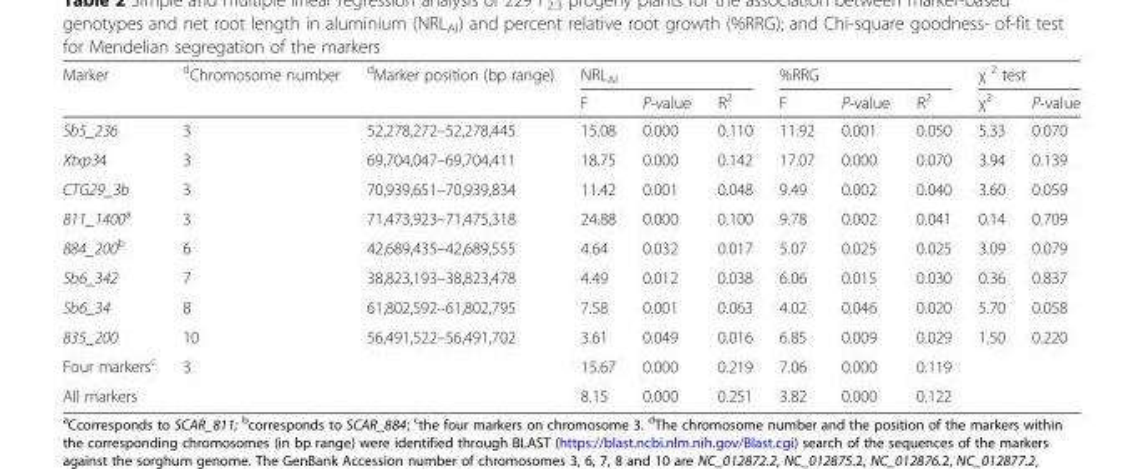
<table><thead><tr><td rowspan="2">Marker</td><td rowspan="2"><sup>d</sup>Chromosome number</td><td rowspan="2"><sup>d</sup>Marker position (bp range)</td><td colspan="3">NRL<sub>Al</sub></td><td colspan="3">%RRG</td><td colspan="2">χ <sup>2</sup> test</td></tr><tr><td>F</td><td>P-value</td><td>R<sup>2</sup></td><td>F</td><td>P-value</td><td>R<sup>2</sup></td><td>χ<sup>2</sup></td><td>P-value</td></tr></thead><tbody><tr><td>Sb5_236</td><td>3</td><td>52,278,272–52,278,445</td><td>15.08</td><td>0.000</td><td>0.110</td><td>11.92</td><td>0.001</td><td>0.050</td><td>5.33</td><td>0.070</td></tr><tr><td>Xtxp34</td><td>3</td><td>69,704,047–69,704,411</td><td>18.75</td><td>0.000</td><td>0.142</td><td>17.07</td><td>0.000</td><td>0.070</td><td>3.94</td><td>0.139</td></tr><tr><td>CTG29_3b</td><td>3</td><td>70,939,651–70,939,834</td><td>11.42</td><td>0.001</td><td>0.048</td><td>9.49</td><td>0.002</td><td>0.040</td><td>3.60</td><td>0.059</td></tr><tr><td>811_1400<sup>a</sup></td><td>3</td><td>71,473,923–71,475,318</td><td>24.88</td><td>0.000</td><td>0.100</td><td>9.78</td><td>0.002</td><td>0.041</td><td>0.14</td><td>0.709</td></tr><tr><td>884_200<sup>b</sup></td><td>6</td><td>42,689,435–42,689,555</td><td>4.64</td><td>0.032</td><td>0.017</td><td>5.07</td><td>0.025</td><td>0.025</td><td>3.09</td><td>0.079</td></tr><tr><td>Sb6_342</td><td>7</td><td>38,823,193–38,823,478</td><td>4.49</td><td>0.012</td><td>0.038</td><td>6.06</td><td>0.015</td><td>0.030</td><td>0.36</td><td>0.837</td></tr><tr><td>Sb6_34</td><td>8</td><td>61,802,592–61,802,795</td><td>7.58</td><td>0.001</td><td>0.063</td><td>4.02</td><td>0.046</td><td>0.020</td><td>5.70</td><td>0.058</td></tr><tr><td>835_200</td><td>10</td><td>56,491,522–56,491,702</td><td>3.61</td><td>0.049</td><td>0.016</td><td>6.85</td><td>0.009</td><td>0.029</td><td>1.50</td><td>0.220</td></tr><tr><td>Four markers<sup>c</sup></td><td>3</td><td></td><td>15.67</td><td>0.000</td><td>0.219</td><td>7.06</td><td>0.000</td><td>0.119</td><td></td><td></td></tr><tr><td>All markers</td><td></td><td></td><td>8.15</td><td>0.000</td><td>0.251</td><td>3.82</td><td>0.000</td><td>0.122</td><td></td><td></td></tr></tbody></table>